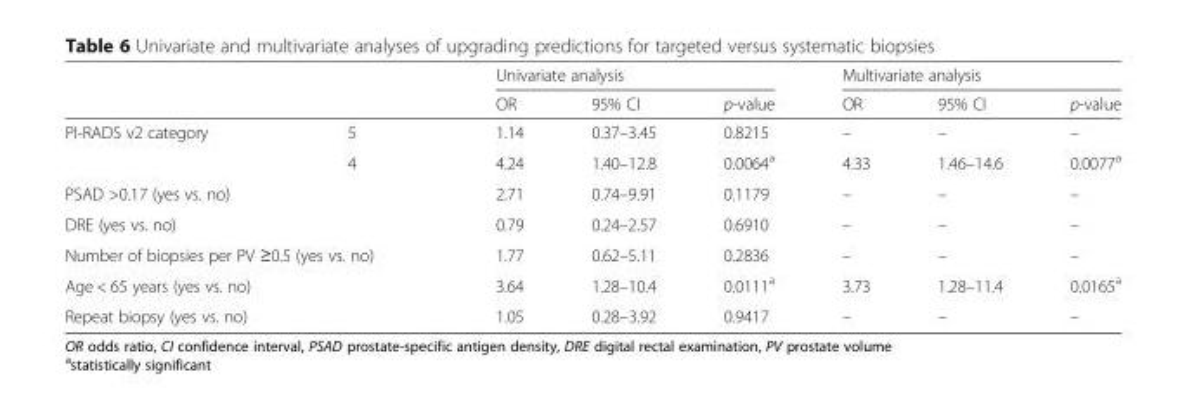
<table><thead><tr><td rowspan="2"></td><td rowspan="2"></td><td colspan="3">Univariate analysis</td><td colspan="3">Multivariate analysis</td></tr><tr><td>OR</td><td>95% CI</td><td>p-value</td><td>OR</td><td>95% CI</td><td>p-value</td></tr></thead><tbody><tr><td rowspan="2">PI-RADS v2 category</td><td>5</td><td>1.14</td><td>0.37–3.45</td><td>0.8215</td><td>–</td><td>–</td><td>–</td></tr><tr><td>4</td><td>4.24</td><td>1.40–12.8</td><td>0.0064<sup>a</sup></td><td>4.33</td><td>1.46–14.6</td><td>0.0077<sup>a</sup></td></tr><tr><td colspan="2">PSAD &gt;0.17 (yes vs. no)</td><td>2.71</td><td>0.74–9.91</td><td>0.1179</td><td>–</td><td>–</td><td>–</td></tr><tr><td colspan="2">DRE (yes vs. no)</td><td>0.79</td><td>0.24–2.57</td><td>0.6910</td><td>–</td><td>–</td><td>–</td></tr><tr><td colspan="2">Number of biopsies per PV ≥0.5 (yes vs. no)</td><td>1.77</td><td>0.62–5.11</td><td>0.2836</td><td>–</td><td>–</td><td>–</td></tr><tr><td colspan="2">Age &lt; 65 years (yes vs. no)</td><td>3.64</td><td>1.28–10.4</td><td>0.0111<sup>a</sup></td><td>3.73</td><td>1.28–11.4</td><td>0.0165<sup>a</sup></td></tr><tr><td colspan="2">Repeat biopsy (yes vs. no)</td><td>1.05</td><td>0.28–3.92</td><td>0.9417</td><td>–</td><td>–</td><td>–</td></tr></tbody></table>